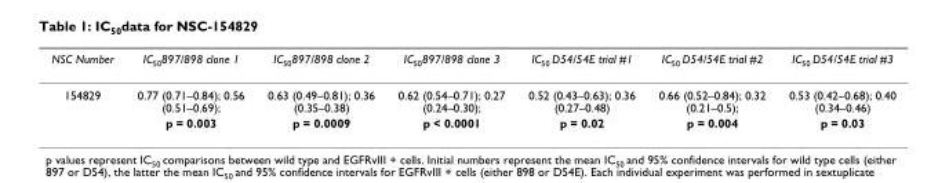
<table><thead><tr><td>NSC Number</td><td>IC<sub>50</sub>897/898 clone 1</td><td>IC<sub>50</sub>897/898 clone 2</td><td>IC<sub>50</sub>897/898 clone 3</td><td>IC<sub>50</sub> D54/54E trial #1</td><td>IC<sub>50</sub> D54/54E trial #2</td><td>IC<sub>50</sub> D54/54E trial #3</td></tr></thead><tbody><tr><td rowspan="2">154829</td><td>0.77 (0.71–0.84); 0.56 (0.51–0.69);</td><td>0.63 (0.49–0.81); 0.36 (0.35–0.38)</td><td>0.62 (0.54–0.71); 0.27 (0.24–0.30);</td><td>0.52 (0.43–0.63); 0.36 (0.27–0.48)</td><td>0.66 (0.52–0.84); 0.32 (0.21–0.5);</td><td>0.53 (0.42–0.68); 0.40 (0.34–0.46)</td></tr><tr><td>p = 0.003</td><td>p = 0.0009</td><td>p &lt; 0.0001</td><td>p = 0.02</td><td>p = 0.004</td><td>p = 0.03</td></tr></tbody></table>